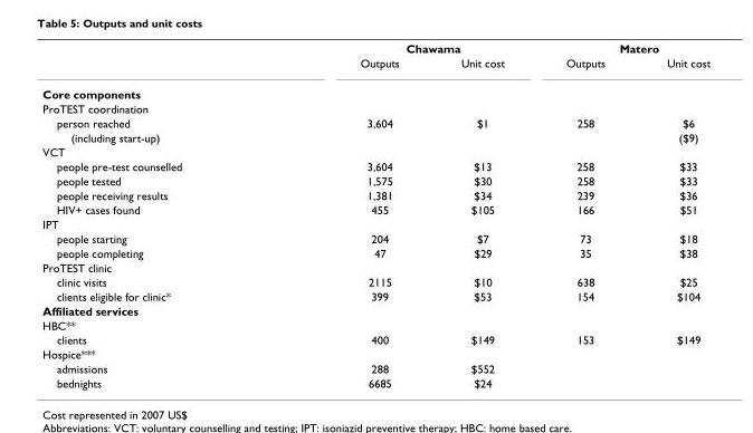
<table><thead><tr><td rowspan="2"></td><td colspan="2">Chawama</td><td colspan="2">Matero</td></tr><tr><td>Outputs</td><td>Unit cost</td><td>Outputs</td><td>Unit cost</td></tr></thead><tbody><tr><td colspan="5">Core components</td></tr><tr><td colspan="5">ProTEST coordination</td></tr><tr><td>person reached</td><td>3,604</td><td>$1</td><td>258</td><td>$6</td></tr><tr><td>(including start-up)</td><td></td><td></td><td></td><td>($9)</td></tr><tr><td colspan="5">VCT</td></tr><tr><td>people pre-test counselled</td><td>3,604</td><td>$13</td><td>258</td><td>$33</td></tr><tr><td>people tested</td><td>1,575</td><td>$30</td><td>258</td><td>$33</td></tr><tr><td>people receiving results</td><td>1,381</td><td>$34</td><td>239</td><td>$36</td></tr><tr><td>HIV+ cases found</td><td>455</td><td>$105</td><td>166</td><td>$51</td></tr><tr><td colspan="5">IPT</td></tr><tr><td>people starting</td><td>204</td><td>$7</td><td>73</td><td>$18</td></tr><tr><td>people completing</td><td>47</td><td>$29</td><td>35</td><td>$38</td></tr><tr><td colspan="5">ProTEST clinic</td></tr><tr><td>clinic visits</td><td>2115</td><td>$10</td><td>638</td><td>$25</td></tr><tr><td>clients eligible for clinic*</td><td>399</td><td>$53</td><td>154</td><td>$104</td></tr><tr><td colspan="5">Affiliated services</td></tr><tr><td colspan="5">HBC**</td></tr><tr><td>clients</td><td>400</td><td>$149</td><td>153</td><td>$149</td></tr><tr><td colspan="5">Hospice***</td></tr><tr><td>admissions</td><td>288</td><td>$552</td><td></td><td></td></tr><tr><td>bednights</td><td>6685</td><td>$24</td><td></td><td></td></tr></tbody></table>